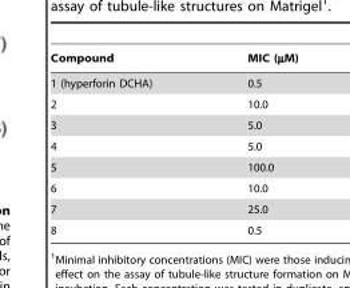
<table><thead><tr><td>Compound</td><td>MIC (µM)</td></tr></thead><tbody><tr><td>1 (hyperforin DCHA)</td><td>0.5</td></tr><tr><td>2</td><td>10.0</td></tr><tr><td>3</td><td>5.0</td></tr><tr><td>4</td><td>5.0</td></tr><tr><td>5</td><td>100.0</td></tr><tr><td>6</td><td>10.0</td></tr><tr><td>7</td><td>25.0</td></tr><tr><td>8</td><td>0.5</td></tr></tbody></table>